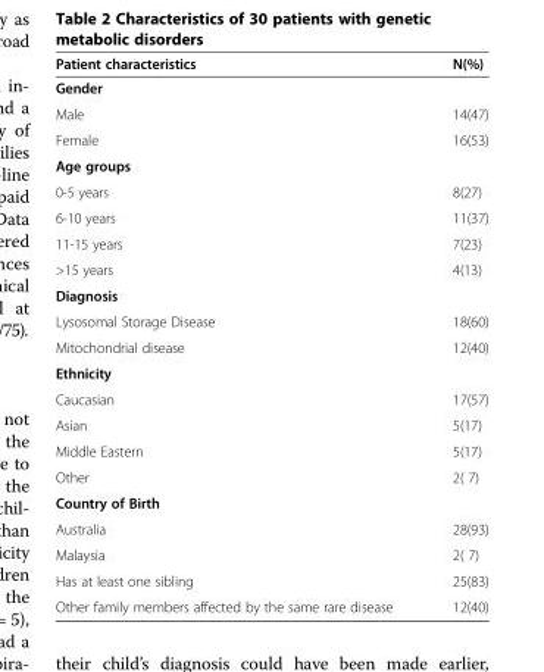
<table><thead><tr><td>Patient characteristics</td><td>N(%)</td></tr></thead><tbody><tr><td colspan="2">Gender</td></tr><tr><td>Male</td><td>14(47)</td></tr><tr><td>Female</td><td>16(53)</td></tr><tr><td colspan="2">Age groups</td></tr><tr><td>0-5 years</td><td>8(27)</td></tr><tr><td>6-10 years</td><td>11(37)</td></tr><tr><td>11-15 years</td><td>7(23)</td></tr><tr><td>&gt;15 years</td><td>4(13)</td></tr><tr><td colspan="2">Diagnosis</td></tr><tr><td>Lysosomal Storage Disease</td><td>18(60)</td></tr><tr><td>Mitochondrial disease</td><td>12(40)</td></tr><tr><td colspan="2">Ethnicity</td></tr><tr><td>Caucasian</td><td>17(57)</td></tr><tr><td>Asian</td><td>5(17)</td></tr><tr><td>Middle Eastern</td><td>5(17)</td></tr><tr><td>Other</td><td>2( 7)</td></tr><tr><td colspan="2">Country of Birth</td></tr><tr><td>Australia</td><td>28(93)</td></tr><tr><td>Malaysia</td><td>2( 7)</td></tr><tr><td>Has at least one sibling</td><td>25(83)</td></tr><tr><td>Other family members affected by the same rare disease</td><td>12(40)</td></tr></tbody></table>